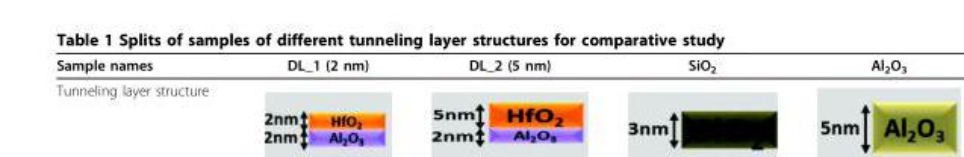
<table><thead><tr><td>Sample names</td><td>DL_1 (2 nm)</td><td>DL_2 (5 nm)</td><td>SiO<sub>2</sub></td><td>Al<sub>2</sub>O<sub>3</sub></td></tr></thead><tbody><tr><td>Tunneling layer structure</td><td></td><td></td><td></td><td></td></tr></tbody></table>